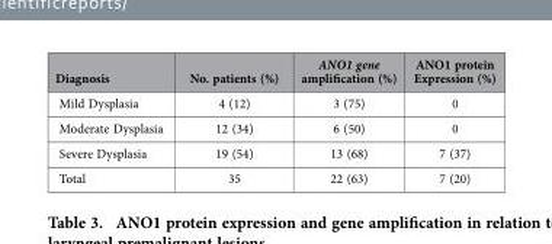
<table><thead><tr><td>Diagnosis</td><td>No. patients (%)</td><td>ANO1 gene amplification (%)</td><td>ANO1 protein Expression (%)</td></tr></thead><tbody><tr><td>Mild Dysplasia</td><td>4 (12)</td><td>3 (75)</td><td>0</td></tr><tr><td>Moderate Dysplasia</td><td>12 (34)</td><td>6 (50)</td><td>0</td></tr><tr><td>Severe Dysplasia</td><td>19 (54)</td><td>13 (68)</td><td>7 (37)</td></tr><tr><td>Total</td><td>35</td><td>22 (63)</td><td>7 (20)</td></tr></tbody></table>